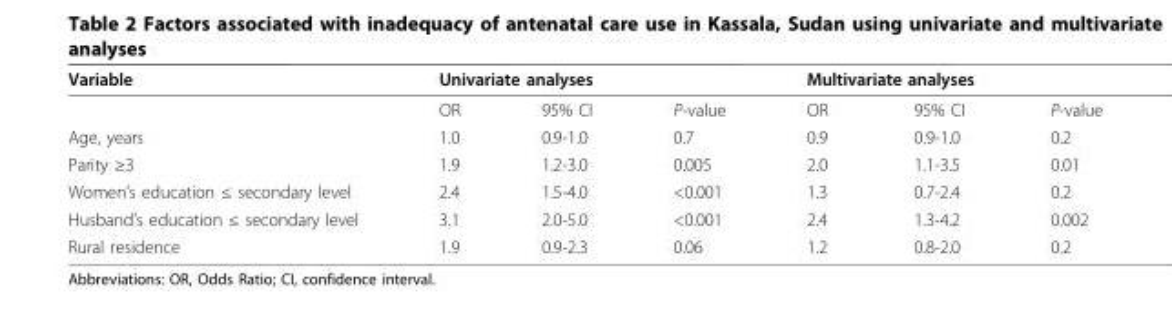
<table><thead><tr><td rowspan="2">Variable</td><td colspan="3">Univariate analyses</td><td colspan="3">Multivariate analyses</td></tr><tr><td>OR</td><td>95% CI</td><td>P-value</td><td>OR</td><td>95% CI</td><td>P-value</td></tr></thead><tbody><tr><td>Age, years</td><td>1.0</td><td>0.9-1.0</td><td>0.7</td><td>0.9</td><td>0.9-1.0</td><td>0.2</td></tr><tr><td>Parity ≥3</td><td>1.9</td><td>1.2-3.0</td><td>0.005</td><td>2.0</td><td>1.1-3.5</td><td>0.01</td></tr><tr><td>Women’s education ≤ secondary level</td><td>2.4</td><td>1.5-4.0</td><td>&lt;0.001</td><td>1.3</td><td>0.7-2.4</td><td>0.2</td></tr><tr><td>Husband’s education ≤ secondary level</td><td>3.1</td><td>2.0-5.0</td><td>&lt;0.001</td><td>2.4</td><td>1.3-4.2</td><td>0.002</td></tr><tr><td>Rural residence</td><td>1.9</td><td>0.9-2.3</td><td>0.06</td><td>1.2</td><td>0.8-2.0</td><td>0.2</td></tr></tbody></table>